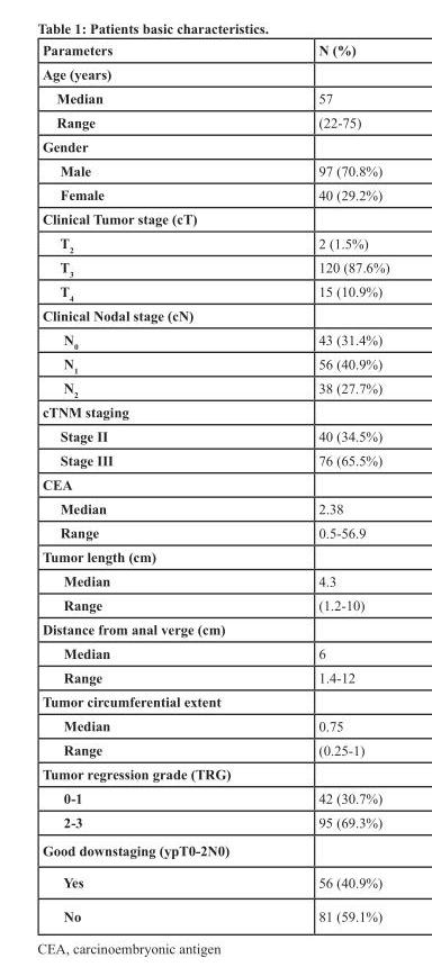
<table><thead><tr><td>Parameters</td><td>N (%)</td></tr></thead><tbody><tr><td colspan="2">Age (years)</td></tr><tr><td>Median</td><td>57</td></tr><tr><td>Range</td><td>(22-75)</td></tr><tr><td colspan="2">Gender</td></tr><tr><td>Male</td><td>97 (70.8%)</td></tr><tr><td>Female</td><td>40 (29.2%)</td></tr><tr><td colspan="2">Clinical Tumor stage (cT)</td></tr><tr><td>T<sub>2</sub></td><td>2 (1.5%)</td></tr><tr><td>T<sub>3</sub></td><td>120 (87.6%)</td></tr><tr><td>T<sub>4</sub></td><td>15 (10.9%)</td></tr><tr><td colspan="2">Clinical Nodal stage (cN)</td></tr><tr><td>N<sub>0</sub></td><td>43 (31.4%)</td></tr><tr><td>N<sub>1</sub></td><td>56 (40.9%)</td></tr><tr><td>N<sub>2</sub></td><td>38 (27.7%)</td></tr><tr><td colspan="2">cTNM staging</td></tr><tr><td>Stage II</td><td>40 (34.5%)</td></tr><tr><td>Stage III</td><td>76 (65.5%)</td></tr><tr><td colspan="2">CEA</td></tr><tr><td>Median</td><td>2.38</td></tr><tr><td>Range</td><td>0.5-56.9</td></tr><tr><td colspan="2">Tumor length (cm)</td></tr><tr><td>Median</td><td>4.3</td></tr><tr><td>Range</td><td>(1.2-10)</td></tr><tr><td colspan="2">Distance from anal verge (cm)</td></tr><tr><td>Median</td><td>6</td></tr><tr><td>Range</td><td>1.4-12</td></tr><tr><td colspan="2">Tumor circumferential extent</td></tr><tr><td>Median</td><td>0.75</td></tr><tr><td>Range</td><td>(0.25-1)</td></tr><tr><td colspan="2">Tumor regression grade (TRG)</td></tr><tr><td>0-1</td><td>42 (30.7%)</td></tr><tr><td>2-3</td><td>95 (69.3%)</td></tr><tr><td colspan="2">Good downstaging (ypT0-2N0)</td></tr><tr><td>Yes</td><td>56 (40.9%)</td></tr><tr><td>No</td><td>81 (59.1%)</td></tr></tbody></table>